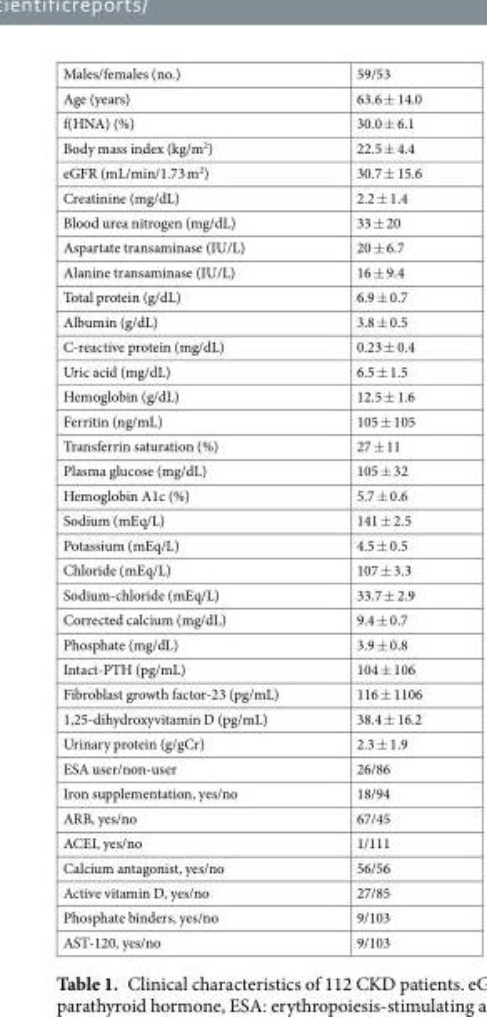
<table><tbody><tr><td>Males/females (no.)</td><td>59/53</td></tr><tr><td>Age (years)</td><td>63.6 ± 14.0</td></tr><tr><td>f(HNA) (%)</td><td>30.0 ± 6.1</td></tr><tr><td>Body mass index (kg/m<sup>2</sup>)</td><td>22.5 ± 4.4</td></tr><tr><td>eGFR (mL/min/1.73 m<sup>2</sup>)</td><td>30.7 ± 15.6</td></tr><tr><td>Creatinine (mg/dL)</td><td>2.2 ± 1.4</td></tr><tr><td>Blood urea nitrogen (mg/dL)</td><td>33 ± 20</td></tr><tr><td>Aspartate transaminase (IU/L)</td><td>20 ± 6.7</td></tr><tr><td>Alanine transaminase (IU/L)</td><td>16 ± 9.4</td></tr><tr><td>Total protein (g/dL)</td><td>6.9 ± 0.7</td></tr><tr><td>Albumin (g/dL)</td><td>3.8 ± 0.5</td></tr><tr><td>C-reactive protein (mg/dL)</td><td>0.23 ± 0.4</td></tr><tr><td>Uric acid (mg/dL)</td><td>6.5 ± 1.5</td></tr><tr><td>Hemoglobin (g/dL)</td><td>12.5 ± 1.6</td></tr><tr><td>Ferritin (ng/mL)</td><td>105 ± 105</td></tr><tr><td>Transferrin saturation (%)</td><td>27 ± 11</td></tr><tr><td>Plasma glucose (mg/dL)</td><td>105 ± 32</td></tr><tr><td>Hemoglobin A1c (%)</td><td>5.7 ± 0.6</td></tr><tr><td>Sodium (mEq/L)</td><td>141 ± 2.5</td></tr><tr><td>Potassium (mEq/L)</td><td>4.5 ± 0.5</td></tr><tr><td>Chloride (mEq/L)</td><td>107 ± 3.3</td></tr><tr><td>Sodium-chloride (mEq/L)</td><td>33.7 ± 2.9</td></tr><tr><td>Corrected calcium (mg/dL)</td><td>9.4 ± 0.7</td></tr><tr><td>Phosphate (mg/dL)</td><td>3.9 ± 0.8</td></tr><tr><td>Intact-PTH (pg/mL)</td><td>104 ± 106</td></tr><tr><td>Fibroblast growth factor-23 (pg/mL)</td><td>116 ± 1106</td></tr><tr><td>1,25-dihydroxyvitamin D (pg/mL)</td><td>38.4 ± 16.2</td></tr><tr><td>Urinary protein (g/gCr)</td><td>2.3 ± 1.9</td></tr><tr><td>ESA user/non-user</td><td>26/86</td></tr><tr><td>Iron supplementation, yes/no</td><td>18/94</td></tr><tr><td>ARB, yes/no</td><td>67/45</td></tr><tr><td>ACEI, yes/no</td><td>1/111</td></tr><tr><td>Calcium antagonist, yes/no</td><td>56/56</td></tr><tr><td>Active vitamin D, yes/no</td><td>27/85</td></tr><tr><td>Phosphate binders, yes/no</td><td>9/103</td></tr><tr><td>AST-120, yes/no</td><td>9/103</td></tr></tbody></table>